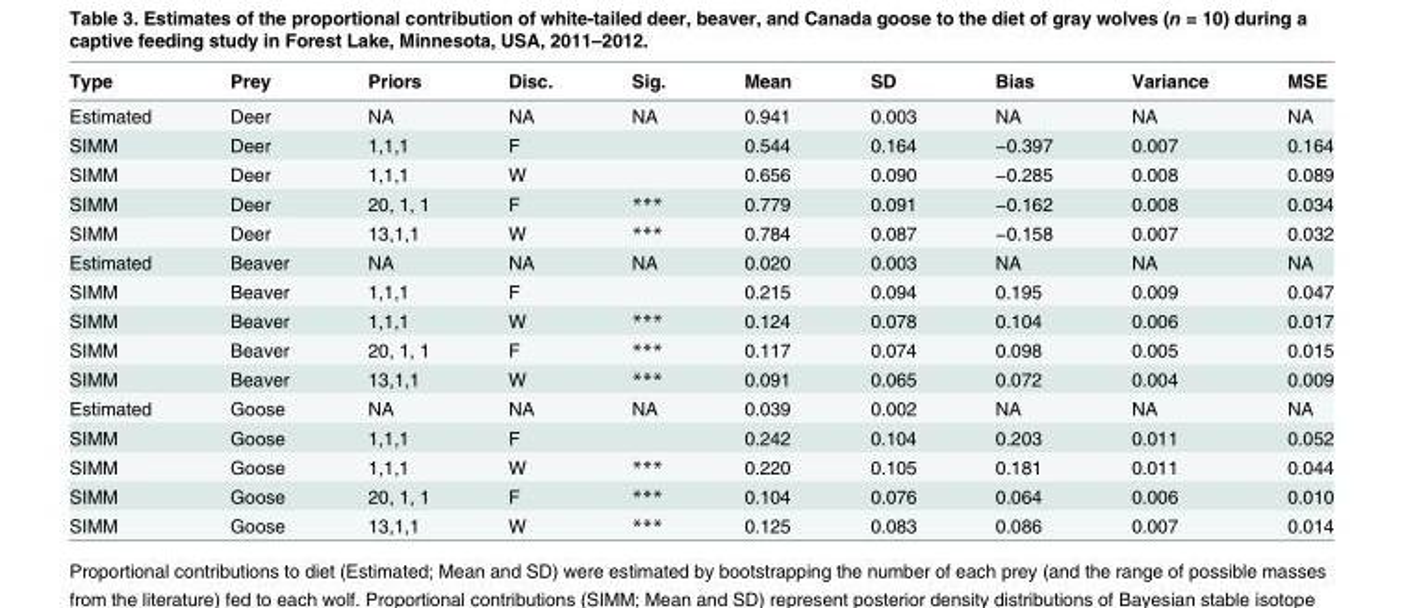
<table><thead><tr><td>Type</td><td>Prey</td><td>Priors</td><td>Disc.</td><td>Sig.</td><td>Mean</td><td>SD</td><td>Bias</td><td>Variance</td><td>MSE</td></tr></thead><tbody><tr><td>Estimated</td><td>Deer</td><td>NA</td><td>NA</td><td>NA</td><td>0.941</td><td>0.003</td><td>NA</td><td>NA</td><td>NA</td></tr><tr><td>SIMM</td><td>Deer</td><td>1,1,1</td><td>F</td><td></td><td>0.544</td><td>0.164</td><td>−0.397</td><td>0.007</td><td>0.164</td></tr><tr><td>SIMM</td><td>Deer</td><td>1,1,1</td><td>W</td><td></td><td>0.656</td><td>0.090</td><td>−0.285</td><td>0.008</td><td>0.089</td></tr><tr><td>SIMM</td><td>Deer</td><td>20, 1, 1</td><td>F</td><td>***</td><td>0.779</td><td>0.091</td><td>−0.162</td><td>0.008</td><td>0.034</td></tr><tr><td>SIMM</td><td>Deer</td><td>13,1,1</td><td>W</td><td>***</td><td>0.784</td><td>0.087</td><td>−0.158</td><td>0.007</td><td>0.032</td></tr><tr><td>Estimated</td><td>Beaver</td><td>NA</td><td>NA</td><td>NA</td><td>0.020</td><td>0.003</td><td>NA</td><td>NA</td><td>NA</td></tr><tr><td>SIMM</td><td>Beaver</td><td>1,1,1</td><td>F</td><td></td><td>0.215</td><td>0.094</td><td>0.195</td><td>0.009</td><td>0.047</td></tr><tr><td>SIMM</td><td>Beaver</td><td>1,1,1</td><td>W</td><td>***</td><td>0.124</td><td>0.078</td><td>0.104</td><td>0.006</td><td>0.017</td></tr><tr><td>SIMM</td><td>Beaver</td><td>20, 1, 1</td><td>F</td><td>***</td><td>0.117</td><td>0.074</td><td>0.098</td><td>0.005</td><td>0.015</td></tr><tr><td>SIMM</td><td>Beaver</td><td>13,1,1</td><td>W</td><td>***</td><td>0.091</td><td>0.065</td><td>0.072</td><td>0.004</td><td>0.009</td></tr><tr><td>Estimated</td><td>Goose</td><td>NA</td><td>NA</td><td>NA</td><td>0.039</td><td>0.002</td><td>NA</td><td>NA</td><td>NA</td></tr><tr><td>SIMM</td><td>Goose</td><td>1,1,1</td><td>F</td><td></td><td>0.242</td><td>0.104</td><td>0.203</td><td>0.011</td><td>0.052</td></tr><tr><td>SIMM</td><td>Goose</td><td>1,1,1</td><td>W</td><td>***</td><td>0.220</td><td>0.105</td><td>0.181</td><td>0.011</td><td>0.044</td></tr><tr><td>SIMM</td><td>Goose</td><td>20, 1, 1</td><td>F</td><td>***</td><td>0.104</td><td>0.076</td><td>0.064</td><td>0.006</td><td>0.010</td></tr><tr><td>SIMM</td><td>Goose</td><td>13,1,1</td><td>W</td><td>***</td><td>0.125</td><td>0.083</td><td>0.086</td><td>0.007</td><td>0.014</td></tr></tbody></table>